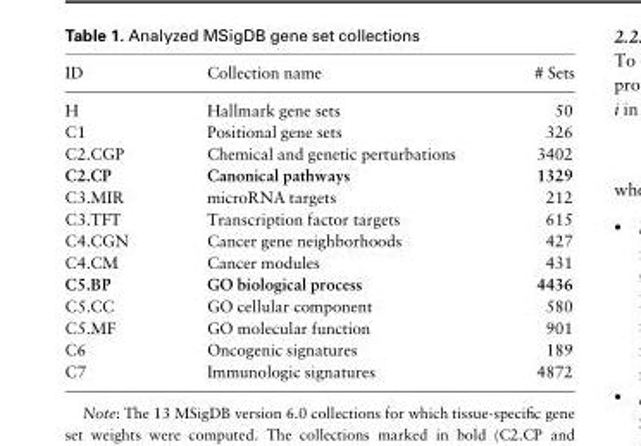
<table><thead><tr><td>ID</td><td>Collection name</td><td># Sets</td></tr></thead><tbody><tr><td>H</td><td>Hallmark gene sets</td><td>50</td></tr><tr><td>C1</td><td>Positional gene sets</td><td>326</td></tr><tr><td>C2.CGP</td><td>Chemical and genetic perturbations</td><td>3402</td></tr><tr><td>C2.CP</td><td>Canonical pathways</td><td>1329</td></tr><tr><td>C3.MIR</td><td>microRNA targets</td><td>212</td></tr><tr><td>C3.TFT</td><td>Transcription factor targets</td><td>615</td></tr><tr><td>C4.CGN</td><td>Cancer gene neighborhoods</td><td>427</td></tr><tr><td>C4.CM</td><td>Cancer modules</td><td>431</td></tr><tr><td>C5.BP</td><td>GO biological process</td><td>4436</td></tr><tr><td>C5.CC</td><td>GO cellular component</td><td>580</td></tr><tr><td>C5.MF</td><td>GO molecular function</td><td>901</td></tr><tr><td>C6</td><td>Oncogenic signatures</td><td>189</td></tr><tr><td>C7</td><td>Immunologic signatures</td><td>4872</td></tr></tbody></table>